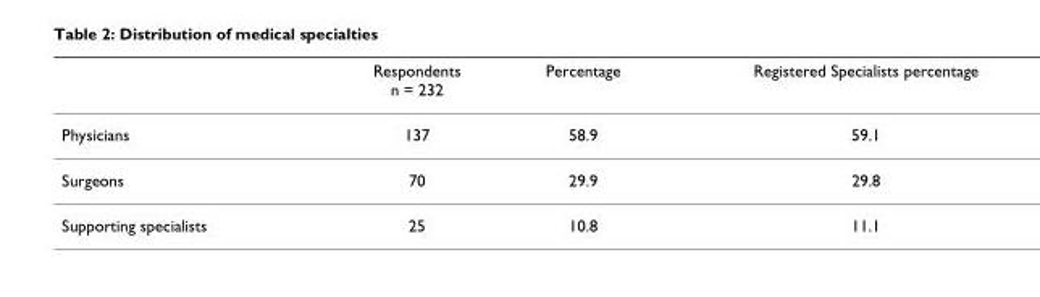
<table><thead><tr><td></td><td>Respondents n = 232</td><td>Percentage</td><td>Registered Specialists percentage</td></tr></thead><tbody><tr><td>Physicians</td><td>137</td><td>58.9</td><td>59.1</td></tr><tr><td>Surgeons</td><td>70</td><td>29.9</td><td>29.8</td></tr><tr><td>Supporting specialists</td><td>25</td><td>10.8</td><td>11.1</td></tr></tbody></table>